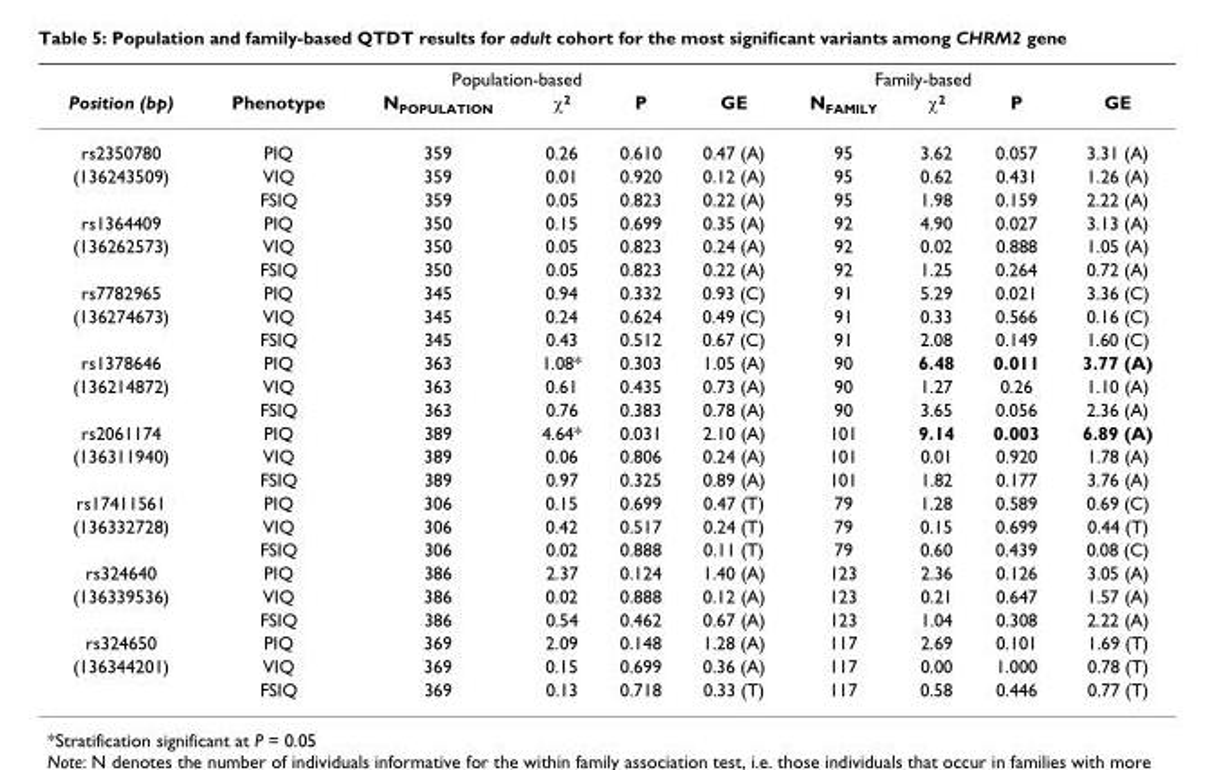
<table><thead><tr><td rowspan="2">Position (bp)</td><td rowspan="2">Phenotype</td><td colspan="3">Population-based</td><td rowspan="2">GE</td><td colspan="3">Family-based</td><td rowspan="2">GE</td></tr><tr><td>N<sub>POPULATION</sub></td><td>χ<sup>2</sup></td><td>P</td><td>N<sub>FAMILY</sub></td><td>χ<sup>2</sup></td><td>P</td></tr></thead><tbody><tr><td>rs2350780</td><td>PIQ</td><td>359</td><td>0.26</td><td>0.610</td><td>0.47 (A)</td><td>95</td><td>3.62</td><td>0.057</td><td>3.31 (A)</td></tr><tr><td rowspan="2">(136243509)</td><td>VIQ</td><td>359</td><td>0.01</td><td>0.920</td><td>0.12 (A)</td><td>95</td><td>0.62</td><td>0.431</td><td>1.26 (A)</td></tr><tr><td>FSIQ</td><td>359</td><td>0.05</td><td>0.823</td><td>0.22 (A)</td><td>95</td><td>1.98</td><td>0.159</td><td>2.22 (A)</td></tr><tr><td>rs1364409</td><td>PIQ</td><td>350</td><td>0.15</td><td>0.699</td><td>0.35 (A)</td><td>92</td><td>4.90</td><td>0.027</td><td>3.13 (A)</td></tr><tr><td rowspan="2">(136262573)</td><td>VIQ</td><td>350</td><td>0.05</td><td>0.823</td><td>0.24 (A)</td><td>92</td><td>0.02</td><td>0.888</td><td>1.05 (A)</td></tr><tr><td>FSIQ</td><td>350</td><td>0.05</td><td>0.823</td><td>0.22 (A)</td><td>92</td><td>1.25</td><td>0.264</td><td>0.72 (A)</td></tr><tr><td>rs7782965</td><td>PIQ</td><td>345</td><td>0.94</td><td>0.332</td><td>0.93 (C)</td><td>91</td><td>5.29</td><td>0.021</td><td>3.36 (C)</td></tr><tr><td rowspan="2">(136274673)</td><td>VIQ</td><td>345</td><td>0.24</td><td>0.624</td><td>0.49 (C)</td><td>91</td><td>0.33</td><td>0.566</td><td>0.16 (C)</td></tr><tr><td>FSIQ</td><td>345</td><td>0.43</td><td>0.512</td><td>0.67 (C)</td><td>91</td><td>2.08</td><td>0.149</td><td>1.60 (C)</td></tr><tr><td>rs1378646</td><td>PIQ</td><td>363</td><td>1.08*</td><td>0.303</td><td>1.05 (A)</td><td>90</td><td>6.48</td><td>0.011</td><td>3.77 (A)</td></tr><tr><td rowspan="2">(136214872)</td><td>VIQ</td><td>363</td><td>0.61</td><td>0.435</td><td>0.73 (A)</td><td>90</td><td>1.27</td><td>0.26</td><td>1.10 (A)</td></tr><tr><td>FSIQ</td><td>363</td><td>0.76</td><td>0.383</td><td>0.78 (A)</td><td>90</td><td>3.65</td><td>0.056</td><td>2.36 (A)</td></tr><tr><td>rs2061174</td><td>PIQ</td><td>389</td><td>4.64*</td><td>0.031</td><td>2.10 (A)</td><td>101</td><td>9.14</td><td>0.003</td><td>6.89 (A)</td></tr><tr><td rowspan="2">(136311940)</td><td>VIQ</td><td>389</td><td>0.06</td><td>0.806</td><td>0.24 (A)</td><td>101</td><td>0.01</td><td>0.920</td><td>1.78 (A)</td></tr><tr><td>FSIQ</td><td>389</td><td>0.97</td><td>0.325</td><td>0.89 (A)</td><td>101</td><td>1.82</td><td>0.177</td><td>3.76 (A)</td></tr><tr><td>rs17411561</td><td>PIQ</td><td>306</td><td>0.15</td><td>0.699</td><td>0.47 (T)</td><td>79</td><td>1.28</td><td>0.589</td><td>0.69 (C)</td></tr><tr><td rowspan="2">(136332728)</td><td>VIQ</td><td>306</td><td>0.42</td><td>0.517</td><td>0.24 (T)</td><td>79</td><td>0.15</td><td>0.699</td><td>0.44 (T)</td></tr><tr><td>FSIQ</td><td>306</td><td>0.02</td><td>0.888</td><td>0.11 (T)</td><td>79</td><td>0.60</td><td>0.439</td><td>0.08 (C)</td></tr><tr><td>rs324640</td><td>PIQ</td><td>386</td><td>2.37</td><td>0.124</td><td>1.40 (A)</td><td>123</td><td>2.36</td><td>0.126</td><td>3.05 (A)</td></tr><tr><td rowspan="2">(136339536)</td><td>VIQ</td><td>386</td><td>0.02</td><td>0.888</td><td>0.12 (A)</td><td>123</td><td>0.21</td><td>0.647</td><td>1.57 (A)</td></tr><tr><td>FSIQ</td><td>386</td><td>0.54</td><td>0.462</td><td>0.67 (A)</td><td>123</td><td>1.04</td><td>0.308</td><td>2.22 (A)</td></tr><tr><td>rs324650</td><td>PIQ</td><td>369</td><td>2.09</td><td>0.148</td><td>1.28 (A)</td><td>117</td><td>2.69</td><td>0.101</td><td>1.69 (T)</td></tr><tr><td rowspan="2">(136344201)</td><td>VIQ</td><td>369</td><td>0.15</td><td>0.699</td><td>0.36 (A)</td><td>117</td><td>0.00</td><td>1.000</td><td>0.78 (T)</td></tr><tr><td>FSIQ</td><td>369</td><td>0.13</td><td>0.718</td><td>0.33 (T)</td><td>117</td><td>0.58</td><td>0.446</td><td>0.77 (T)</td></tr></tbody></table>